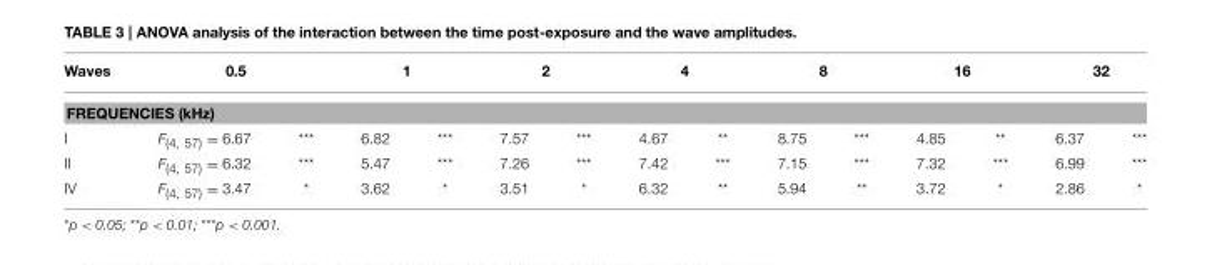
<table><thead><tr><td>Waves</td><td colspan="2">0.5</td><td colspan="2">1</td><td colspan="2">2</td><td colspan="2">4</td><td colspan="2">8</td><td colspan="2">16</td><td colspan="2">32</td></tr><tr><td colspan="15">FREQUENCIES (kHz)</td></tr><tr><td>I</td><td>F<sub>(4, 57)</sub> = 6.67</td><td>***</td><td>6.82</td><td>***</td><td>7.57</td><td>***</td><td>4.67</td><td>**</td><td>8.75</td><td>***</td><td>4.85</td><td>**</td><td>6.37</td><td>***</td></tr></thead><tbody><tr><td>II</td><td>F<sub>(4, 57)</sub> = 6.32</td><td>***</td><td>5.47</td><td>***</td><td>7.26</td><td>***</td><td>7.42</td><td>***</td><td>7.15</td><td>***</td><td>7.32</td><td>***</td><td>6.99</td><td>***</td></tr><tr><td>IV</td><td>F<sub>(4, 57)</sub> = 3.47</td><td>*</td><td>3.62</td><td>*</td><td>3.51</td><td>*</td><td>6.32</td><td>**</td><td>5.94</td><td>**</td><td>3.72</td><td>*</td><td>2.86</td><td>*</td></tr></tbody></table>